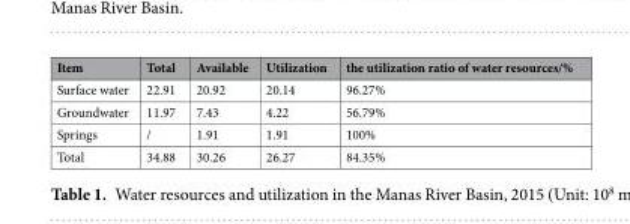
<table><thead><tr><td>Item</td><td>Total</td><td>Available</td><td>Utilization</td><td>the utilization ratio of water resources/%</td></tr></thead><tbody><tr><td>Surface water</td><td>22.91</td><td>20.92</td><td>20.14</td><td>96.27%</td></tr><tr><td>Groundwater</td><td>11.97</td><td>7.43</td><td>4.22</td><td>56.79%</td></tr><tr><td>Springs</td><td>/</td><td>1.91</td><td>1.91</td><td>100%</td></tr><tr><td>Total</td><td>34.88</td><td>30.26</td><td>26.27</td><td>84.35%</td></tr></tbody></table>